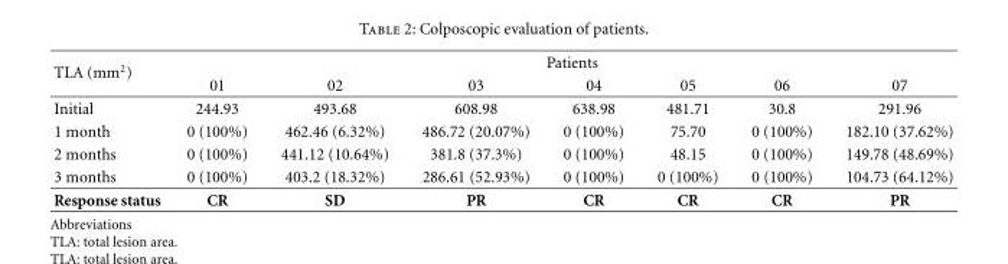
<table><thead><tr><td rowspan="2">TLA (mm<sup>2</sup>)</td><td colspan="7">Patients</td></tr><tr><td>01</td><td>02</td><td>03</td><td>04</td><td>05</td><td>06</td><td>07</td></tr></thead><tbody><tr><td>Initial</td><td>244.93</td><td>493.68</td><td>608.98</td><td>638.98</td><td>481.71</td><td>30.8</td><td>291.96</td></tr><tr><td>1 month</td><td>0 (100%)</td><td>462.46 (6.32%)</td><td>486.72 (20.07%)</td><td>0 (100%)</td><td>75.70</td><td>0 (100%)</td><td>182.10 (37.62%)</td></tr><tr><td>2 months</td><td>0 (100%)</td><td>441.12 (10.64%)</td><td>381.8 (37.3%)</td><td>0 (100%)</td><td>48.15</td><td>0 (100%)</td><td>149.78 (48.69%)</td></tr><tr><td>3 months</td><td>0 (100%)</td><td>403.2 (18.32%)</td><td>286.61 (52.93%)</td><td>0 (100%)</td><td>0 (100%)</td><td>0 (100%)</td><td>104.73 (64.12%)</td></tr><tr><td>Response status</td><td>CR</td><td>SD</td><td>PR</td><td>CR</td><td>CR</td><td>CR</td><td>PR</td></tr></tbody></table>